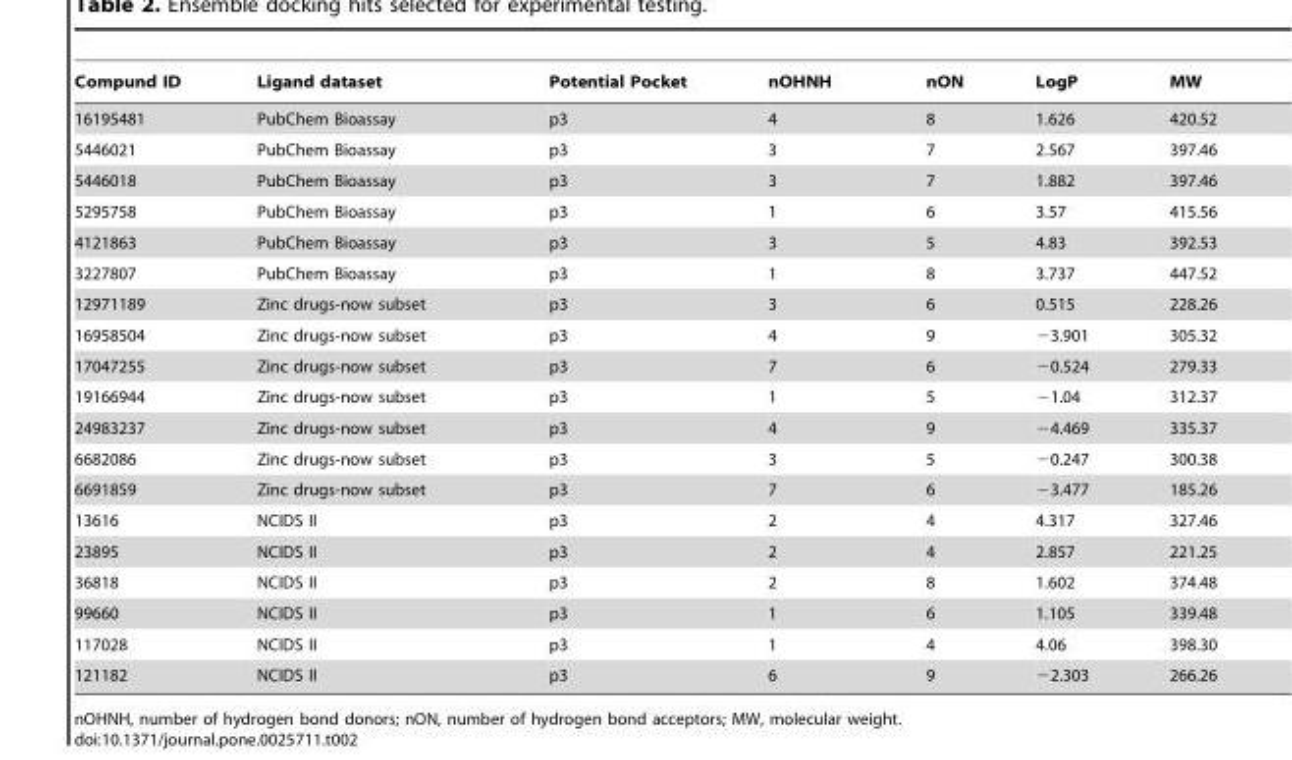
<table><thead><tr><td>Compund ID</td><td>Ligand dataset</td><td>Potential Pocket</td><td>nOHNH</td><td>nON</td><td>LogP</td><td>MW</td></tr></thead><tbody><tr><td>16195481</td><td>PubChem Bioassay</td><td>p3</td><td>4</td><td>8</td><td>1.626</td><td>420.52</td></tr><tr><td>5446021</td><td>PubChem Bioassay</td><td>p3</td><td>3</td><td>7</td><td>2.567</td><td>397.46</td></tr><tr><td>5446018</td><td>PubChem Bioassay</td><td>p3</td><td>3</td><td>7</td><td>1.882</td><td>397.46</td></tr><tr><td>5295758</td><td>PubChem Bioassay</td><td>p3</td><td>1</td><td>6</td><td>3.57</td><td>415.56</td></tr><tr><td>4121863</td><td>PubChem Bioassay</td><td>p3</td><td>3</td><td>5</td><td>4.83</td><td>392.53</td></tr><tr><td>3227807</td><td>PubChem Bioassay</td><td>p3</td><td>1</td><td>8</td><td>3.737</td><td>447.52</td></tr><tr><td>12971189</td><td>Zinc drugs-now subset</td><td>p3</td><td>3</td><td>6</td><td>0.515</td><td>228.26</td></tr><tr><td>16958504</td><td>Zinc drugs-now subset</td><td>p3</td><td>4</td><td>9</td><td>−3.901</td><td>305.32</td></tr><tr><td>17047255</td><td>Zinc drugs-now subset</td><td>p3</td><td>7</td><td>6</td><td>−0.524</td><td>279.33</td></tr><tr><td>19166944</td><td>Zinc drugs-now subset</td><td>p3</td><td>1</td><td>5</td><td>−1.04</td><td>312.37</td></tr><tr><td>24983237</td><td>Zinc drugs-now subset</td><td>p3</td><td>4</td><td>9</td><td>−4.469</td><td>335.37</td></tr><tr><td>6682086</td><td>Zinc drugs-now subset</td><td>p3</td><td>3</td><td>5</td><td>−0.247</td><td>300.38</td></tr><tr><td>6691859</td><td>Zinc drugs-now subset</td><td>p3</td><td>7</td><td>6</td><td>−3.477</td><td>185.26</td></tr><tr><td>13616</td><td>NCIDS II</td><td>p3</td><td>2</td><td>4</td><td>4.317</td><td>327.46</td></tr><tr><td>23895</td><td>NCIDS II</td><td>p3</td><td>2</td><td>4</td><td>2.857</td><td>221.25</td></tr><tr><td>36818</td><td>NCIDS II</td><td>p3</td><td>2</td><td>8</td><td>1.602</td><td>374.48</td></tr><tr><td>99660</td><td>NCIDS II</td><td>p3</td><td>1</td><td>6</td><td>1.105</td><td>339.48</td></tr><tr><td>117028</td><td>NCIDS II</td><td>p3</td><td>1</td><td>4</td><td>4.06</td><td>398.30</td></tr><tr><td>121182</td><td>NCIDS II</td><td>p3</td><td>6</td><td>9</td><td>−2.303</td><td>266.26</td></tr></tbody></table>